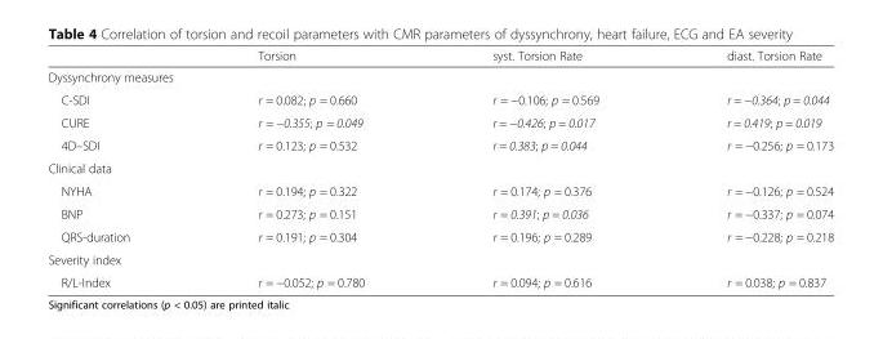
<table><thead><tr><td></td><td>Torsion</td><td>syst. Torsion Rate</td><td>diast. Torsion Rate</td></tr></thead><tbody><tr><td colspan="4">Dyssynchrony measures</td></tr><tr><td>C-SDI</td><td>r = 0.082; p = 0.660</td><td>r = −0.106; p = 0.569</td><td>r = −0.364; p = 0.044</td></tr><tr><td>CURE</td><td>r = −0.355; p = 0.049</td><td>r = −0.426; p = 0.017</td><td>r = 0.419; p = 0.019</td></tr><tr><td>4D–SDI</td><td>r = 0.123; p = 0.532</td><td>r = 0.383; p = 0.044</td><td>r = −0.256; p = 0.173</td></tr><tr><td colspan="4">Clinical data</td></tr><tr><td>NYHA</td><td>r = 0.194; p = 0.322</td><td>r = 0.174; p = 0.376</td><td>r = −0.126; p = 0.524</td></tr><tr><td>BNP</td><td>r = 0.273; p = 0.151</td><td>r = 0.391; p = 0.036</td><td>r = −0.337; p = 0.074</td></tr><tr><td>QRS-duration</td><td>r = 0.191; p = 0.304</td><td>r = 0.196; p = 0.289</td><td>r = −0.228; p = 0.218</td></tr><tr><td colspan="4">Severity index</td></tr><tr><td>R/L-Index</td><td>r = −0.052; p = 0.780</td><td>r = 0.094; p = 0.616</td><td>r = 0.038; p = 0.837</td></tr></tbody></table>